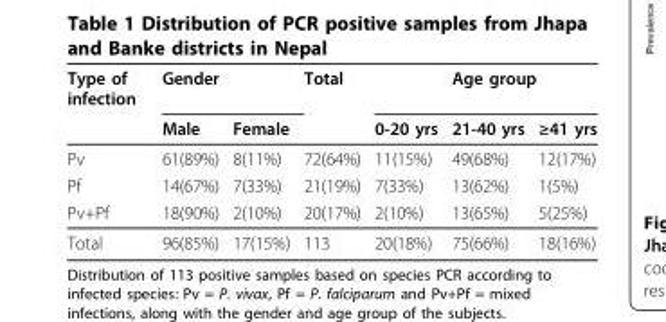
<table><thead><tr><td rowspan="2">Type of infection</td><td rowspan="2">Gender Male</td><td></td><td>Total</td><td rowspan="2">0-20 yrs</td><td colspan="2">Age group</td></tr><tr><td colspan="2">Female</td><td>21-40 yrs</td><td>≥41 yrs</td></tr></thead><tbody><tr><td>Pv</td><td>61(89%)</td><td>8(11%)</td><td>72(64%)</td><td>11(15%)</td><td>49(68%)</td><td>12(17%)</td></tr><tr><td>Pf</td><td>14(67%)</td><td>7(33%)</td><td>21(19%)</td><td>7(33%)</td><td>13(62%)</td><td>1(5%)</td></tr><tr><td>Pv+Pf</td><td>18(90%)</td><td>2(10%)</td><td>20(17%)</td><td>2(10%)</td><td>13(65%)</td><td>5(25%)</td></tr><tr><td>Total</td><td>96(85%)</td><td>17(15%)</td><td>113</td><td>20(18%)</td><td>75(66%)</td><td>18(16%)</td></tr></tbody></table>